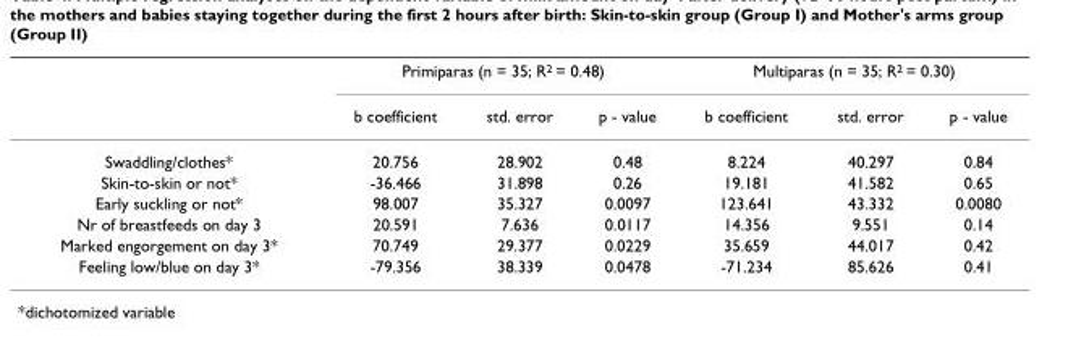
<table><thead><tr><td rowspan="2"></td><td colspan="3">Primiparas (n = 35; R<sup>2</sup> = 0.48)</td><td colspan="3">Multiparas (n = 35; R<sup>2</sup> = 0.30)</td></tr><tr><td>b coefficient</td><td>std. error</td><td>p - value</td><td>b coefficient</td><td>std. error</td><td>p - value</td></tr></thead><tbody><tr><td>Swaddling/clothes*</td><td>20.756</td><td>28.902</td><td>0.48</td><td>8.224</td><td>40.297</td><td>0.84</td></tr><tr><td>Skin-to-skin or not*</td><td>-36.466</td><td>31.898</td><td>0.26</td><td>19.181</td><td>41.582</td><td>0.65</td></tr><tr><td>Early suckling or not*</td><td>98.007</td><td>35.327</td><td>0.0097</td><td>123.641</td><td>43.332</td><td>0.0080</td></tr><tr><td>Nr of breastfeeds on day 3</td><td>20.591</td><td>7.636</td><td>0.0117</td><td>14.356</td><td>9.551</td><td>0.14</td></tr><tr><td>Marked engorgement on day 3*</td><td>70.749</td><td>29.377</td><td>0.0229</td><td>35.659</td><td>44.017</td><td>0.42</td></tr><tr><td>Feeling low/blue on day 3*</td><td>-79.356</td><td>38.339</td><td>0.0478</td><td>-71.234</td><td>85.626</td><td>0.41</td></tr></tbody></table>